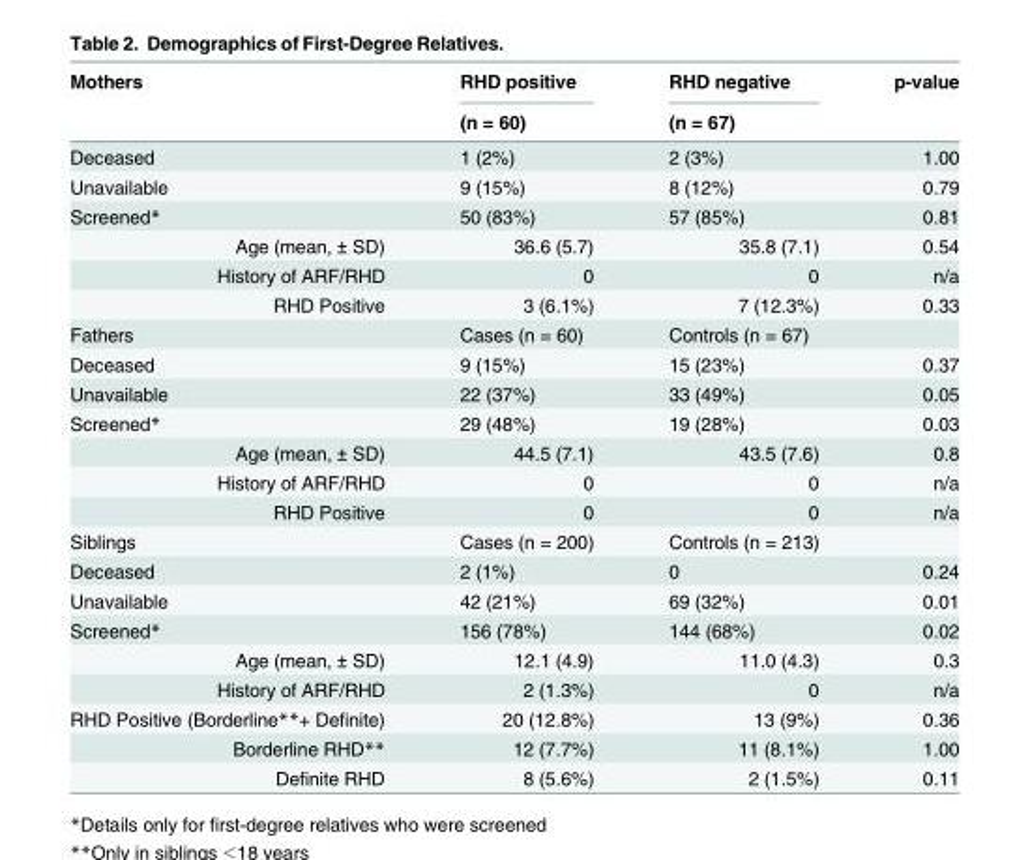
<table><thead><tr><td rowspan="2">Mothers</td><td rowspan="2">RHD positive (n = 60)</td><td rowspan="2">RHD negative (n = 67)</td><td rowspan="2">p-value</td></tr><tr></tr></thead><tbody><tr><td>Deceased</td><td>1 (2%)</td><td>2 (3%)</td><td>1.00</td></tr><tr><td>Unavailable</td><td>9 (15%)</td><td>8 (12%)</td><td>0.79</td></tr><tr><td>Screened*</td><td>50 (83%)</td><td>57 (85%)</td><td>0.81</td></tr><tr><td>Age (mean, ± SD)</td><td>36.6 (5.7)</td><td>35.8 (7.1)</td><td>0.54</td></tr><tr><td>History of ARF/RHD</td><td>0</td><td>0</td><td>n/a</td></tr><tr><td>RHD Positive</td><td>3 (6.1%)</td><td>7 (12.3%)</td><td>0.33</td></tr><tr><td>Fathers</td><td>Cases (n = 60)</td><td>Controls (n = 67)</td><td></td></tr><tr><td>Deceased</td><td>9 (15%)</td><td>15 (23%)</td><td>0.37</td></tr><tr><td>Unavailable</td><td>22 (37%)</td><td>33 (49%)</td><td>0.05</td></tr><tr><td>Screened*</td><td>29 (48%)</td><td>19 (28%)</td><td>0.03</td></tr><tr><td>Age (mean, ± SD)</td><td>44.5 (7.1)</td><td>43.5 (7.6)</td><td>0.8</td></tr><tr><td>History of ARF/RHD</td><td>0</td><td>0</td><td>n/a</td></tr><tr><td>RHD Positive</td><td>0</td><td>0</td><td>n/a</td></tr><tr><td>Siblings</td><td>Cases (n = 200)</td><td>Controls (n = 213)</td><td></td></tr><tr><td>Deceased</td><td>2 (1%)</td><td>0</td><td>0.24</td></tr><tr><td>Unavailable</td><td>42 (21%)</td><td>69 (32%)</td><td>0.01</td></tr><tr><td>Screened*</td><td>156 (78%)</td><td>144 (68%)</td><td>0.02</td></tr><tr><td>Age (mean, ± SD)</td><td>12.1 (4.9)</td><td>11.0 (4.3)</td><td>0.3</td></tr><tr><td>History of ARF/RHD</td><td>2 (1.3%)</td><td>0</td><td>n/a</td></tr><tr><td>RHD Positive (Borderline**+ Definite)</td><td>20 (12.8%)</td><td>13 (9%)</td><td>0.36</td></tr><tr><td>Borderline RHD**</td><td>12 (7.7%)</td><td>11 (8.1%)</td><td>1.00</td></tr><tr><td>Definite RHD</td><td>8 (5.6%)</td><td>2 (1.5%)</td><td>0.11</td></tr></tbody></table>